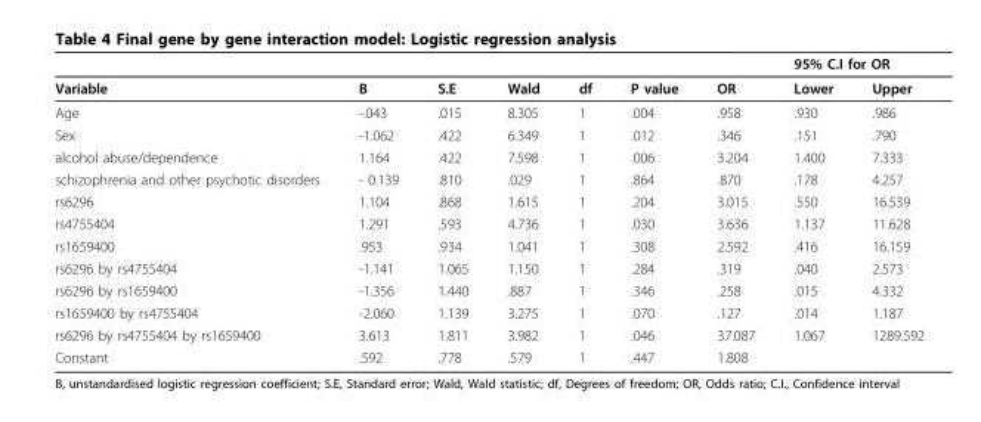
<table><thead><tr><td rowspan="2">Variable</td><td rowspan="2">B</td><td rowspan="2">S.E</td><td rowspan="2">Wald</td><td rowspan="2">df</td><td rowspan="2">P value</td><td rowspan="2">OR</td><td colspan="2">95% C.I for OR</td></tr><tr><td>Lower</td><td>Upper</td></tr></thead><tbody><tr><td>Age</td><td>-.043</td><td>.015</td><td>8.305</td><td>1</td><td>.004</td><td>.958</td><td>.930</td><td>.986</td></tr><tr><td>Sex</td><td>-1.062</td><td>.422</td><td>6.349</td><td>1</td><td>.012</td><td>.346</td><td>.151</td><td>.790</td></tr><tr><td>alcohol abuse/dependence</td><td>1.164</td><td>.422</td><td>7.598</td><td>1</td><td>.006</td><td>3.204</td><td>1.400</td><td>7.333</td></tr><tr><td>schizophrenia and other psychotic disorders</td><td>- 0.139</td><td>.810</td><td>.029</td><td>1</td><td>.864</td><td>.870</td><td>.178</td><td>4.257</td></tr><tr><td>rs6296</td><td>1.104</td><td>.868</td><td>1.615</td><td>1</td><td>.204</td><td>3.015</td><td>.550</td><td>16.539</td></tr><tr><td>rs4755404</td><td>1.291</td><td>.593</td><td>4.736</td><td>1</td><td>.030</td><td>3.636</td><td>1.137</td><td>11.628</td></tr><tr><td>rs1659400</td><td>.953</td><td>.934</td><td>1.041</td><td>1</td><td>.308</td><td>2.592</td><td>.416</td><td>16.159</td></tr><tr><td>rs6296 by rs4755404</td><td>-1.141</td><td>1.065</td><td>1.150</td><td>1</td><td>.284</td><td>.319</td><td>.040</td><td>2.573</td></tr><tr><td>rs6296 by rs1659400</td><td>-1.356</td><td>1.440</td><td>.887</td><td>1</td><td>.346</td><td>.258</td><td>.015</td><td>4.332</td></tr><tr><td>rs1659400 by rs4755404</td><td>-2.060</td><td>1.139</td><td>3.275</td><td>1</td><td>.070</td><td>.127</td><td>.014</td><td>1.187</td></tr><tr><td>rs6296 by rs4755404 by rs1659400</td><td>3.613</td><td>1.811</td><td>3.982</td><td>1</td><td>.046</td><td>37.087</td><td>1.067</td><td>1289.592</td></tr><tr><td>Constant</td><td>.592</td><td>.778</td><td>.579</td><td>1</td><td>.447</td><td>1.808</td><td></td><td></td></tr></tbody></table>